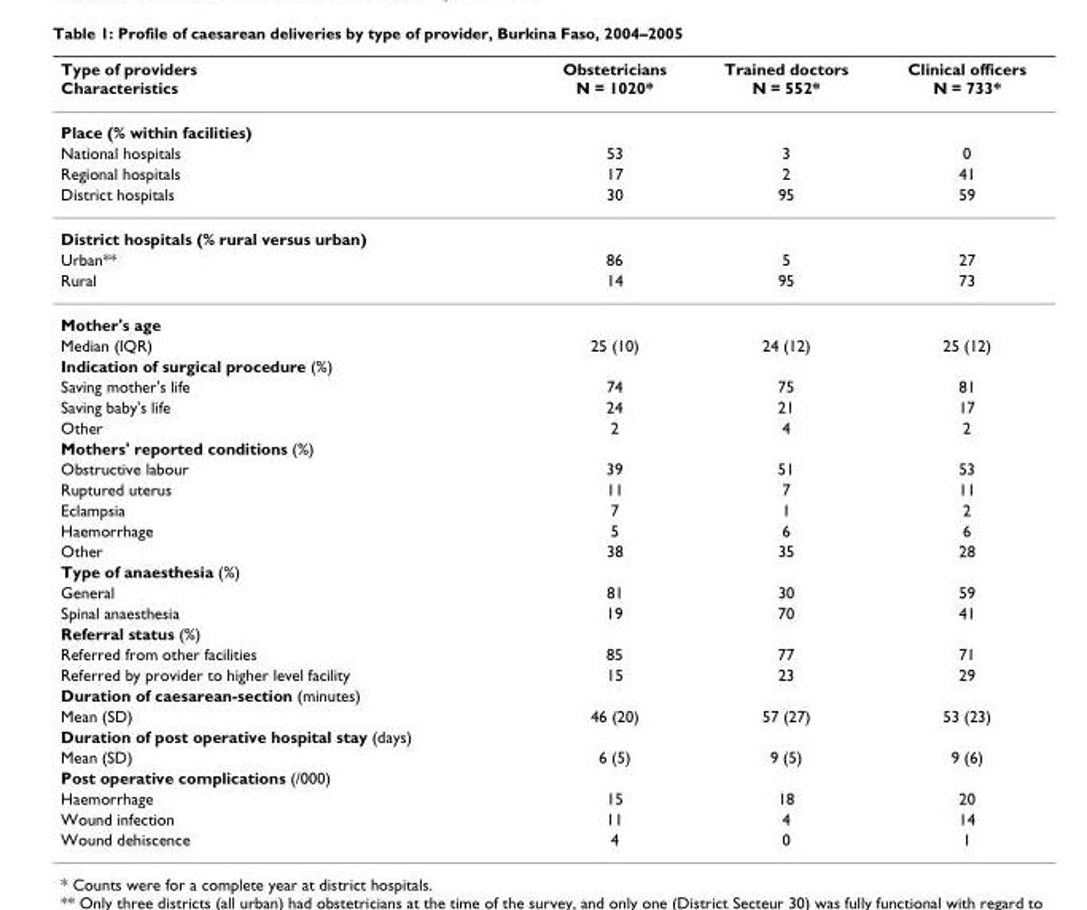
<table><thead><tr><td>Type of providers Characteristics</td><td>Obstetricians N = 1020*</td><td>Trained doctors N = 552*</td><td>Clinical officers N = 733*</td></tr></thead><tbody><tr><td colspan="4">Place (% within facilities)</td></tr><tr><td>National hospitals</td><td>53</td><td>3</td><td>0</td></tr><tr><td>Regional hospitals</td><td>17</td><td>2</td><td>41</td></tr><tr><td>District hospitals</td><td>30</td><td>95</td><td>59</td></tr><tr><td colspan="4">District hospitals (% rural versus urban)</td></tr><tr><td>Urban**</td><td>86</td><td>5</td><td>27</td></tr><tr><td>Rural</td><td>14</td><td>95</td><td>73</td></tr><tr><td colspan="4">Mother&#x27;s age</td></tr><tr><td>Median (IQR)</td><td>25 (10)</td><td>24 (12)</td><td>25 (12)</td></tr><tr><td colspan="4">Indication of surgical procedure (%)</td></tr><tr><td>Saving mother&#x27;s life</td><td>74</td><td>75</td><td>81</td></tr><tr><td>Saving baby&#x27;s life</td><td>24</td><td>21</td><td>17</td></tr><tr><td>Other</td><td>2</td><td>4</td><td>2</td></tr><tr><td colspan="4">Mothers&#x27; reported conditions (%)</td></tr><tr><td>Obstructive labour</td><td>39</td><td>51</td><td>53</td></tr><tr><td>Ruptured uterus</td><td>11</td><td>7</td><td>11</td></tr><tr><td>Eclampsia</td><td>7</td><td>1</td><td>2</td></tr><tr><td>Haemorrhage</td><td>5</td><td>6</td><td>6</td></tr><tr><td>Other</td><td>38</td><td>35</td><td>28</td></tr><tr><td colspan="4">Type of anaesthesia (%)</td></tr><tr><td>General</td><td>81</td><td>30</td><td>59</td></tr><tr><td>Spinal anaesthesia</td><td>19</td><td>70</td><td>41</td></tr><tr><td colspan="4">Referral status (%)</td></tr><tr><td>Referred from other facilities</td><td>85</td><td>77</td><td>71</td></tr><tr><td>Referred by provider to higher level facility</td><td>15</td><td>23</td><td>29</td></tr><tr><td colspan="4">Duration of caesarean-section (minutes)</td></tr><tr><td>Mean (SD)</td><td>46 (20)</td><td>57 (27)</td><td>53 (23)</td></tr><tr><td colspan="4">Duration of post operative hospital stay (days)</td></tr><tr><td>Mean (SD)</td><td>6 (5)</td><td>9 (5)</td><td>9 (6)</td></tr><tr><td colspan="4">Post operative complications (/000)</td></tr><tr><td>Haemorrhage</td><td>15</td><td>18</td><td>20</td></tr><tr><td>Wound infection</td><td>11</td><td>4</td><td>14</td></tr><tr><td>Wound dehiscence</td><td>4</td><td>0</td><td>1</td></tr></tbody></table>